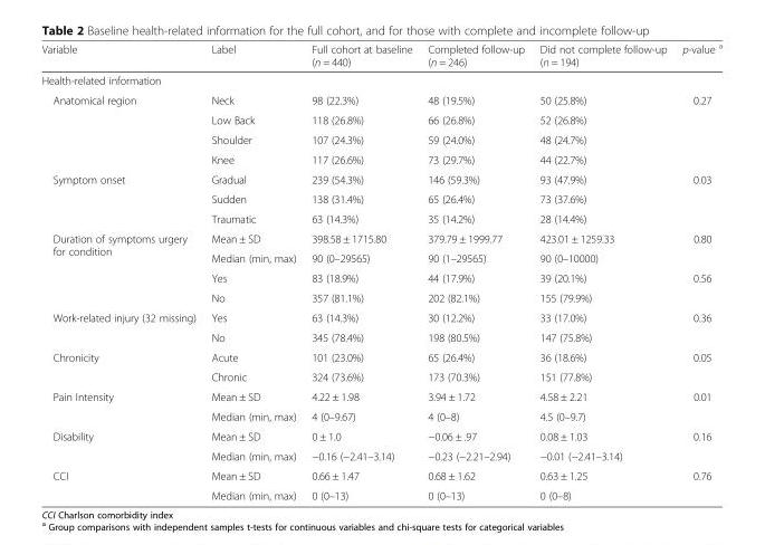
<table><thead><tr><td>Variable</td><td>Label</td><td>Full cohort at baseline (n = 440)</td><td>Completed follow-up (n = 246)</td><td>Did not complete follow-up (n = 194)</td><td>p-value <sup>a</sup></td></tr></thead><tbody><tr><td colspan="6">Health-related information</td></tr><tr><td rowspan="4">Anatomical region</td><td>Neck</td><td>98 (22.3%)</td><td>48 (19.5%)</td><td>50 (25.8%)</td><td>0.27</td></tr><tr><td>Low Back</td><td>118 (26.8%)</td><td>66 (26.8%)</td><td>52 (26.8%)</td><td></td></tr><tr><td>Shoulder</td><td>107 (24.3%)</td><td>59 (24.0%)</td><td>48 (24.7%)</td><td></td></tr><tr><td>Knee</td><td>117 (26.6%)</td><td>73 (29.7%)</td><td>44 (22.7%)</td><td></td></tr><tr><td rowspan="3">Symptom onset</td><td>Gradual</td><td>239 (54.3%)</td><td>146 (59.3%)</td><td>93 (47.9%)</td><td>0.03</td></tr><tr><td>Sudden</td><td>138 (31.4%)</td><td>65 (26.4%)</td><td>73 (37.6%)</td><td></td></tr><tr><td>Traumatic</td><td>63 (14.3%)</td><td>35 (14.2%)</td><td>28 (14.4%)</td><td></td></tr><tr><td rowspan="4">Duration of symptoms urgery for condition</td><td>Mean ± SD</td><td>398.58 ± 1715.80</td><td>379.79 ± 1999.77</td><td>423.01 ± 1259.33</td><td>0.80</td></tr><tr><td>Median (min, max)</td><td>90 (0–29565)</td><td>90 (1–29565)</td><td>90 (0–10000)</td><td></td></tr><tr><td>Yes</td><td>83 (18.9%)</td><td>44 (17.9%)</td><td>39 (20.1%)</td><td>0.56</td></tr><tr><td>No</td><td>357 (81.1%)</td><td>202 (82.1%)</td><td>155 (79.9%)</td><td></td></tr><tr><td rowspan="2">Work-related injury (32 missing)</td><td>Yes</td><td>63 (14.3%)</td><td>30 (12.2%)</td><td>33 (17.0%)</td><td>0.36</td></tr><tr><td>No</td><td>345 (78.4%)</td><td>198 (80.5%)</td><td>147 (75.8%)</td><td></td></tr><tr><td rowspan="2">Chronicity</td><td>Acute</td><td>101 (23.0%)</td><td>65 (26.4%)</td><td>36 (18.6%)</td><td rowspan="2">0.05</td></tr><tr><td>Chronic</td><td>324 (73.6%)</td><td>173 (70.3%)</td><td>151 (77.8%)</td></tr><tr><td rowspan="2">Pain Intensity</td><td>Mean ± SD</td><td>4.22 ± 1.98</td><td>3.94 ± 1.72</td><td>4.58 ± 2.21</td><td rowspan="2">0.01</td></tr><tr><td>Median (min, max)</td><td>4 (0–9.67)</td><td>4 (0–8)</td><td>4.5 (0–9.7)</td></tr><tr><td rowspan="2">Disability</td><td>Mean ± SD</td><td>0 ± 1.0</td><td>−0.06 ± .97</td><td>0.08 ± 1.03</td><td rowspan="2">0.16</td></tr><tr><td>Median (min, max)</td><td>−0.16 (−2.41–3.14)</td><td>−0.23 (−2.21–2.94)</td><td>−0.01 (−2.41–3.14)</td></tr><tr><td rowspan="2">CCI</td><td>Mean ± SD</td><td>0.66 ± 1.47</td><td>0.68 ± 1.62</td><td>0.63 ± 1.25</td><td rowspan="2">0.76</td></tr><tr><td>Median (min, max)</td><td>0 (0–13)</td><td>0 (0–13)</td><td>0 (0–8)</td></tr></tbody></table>